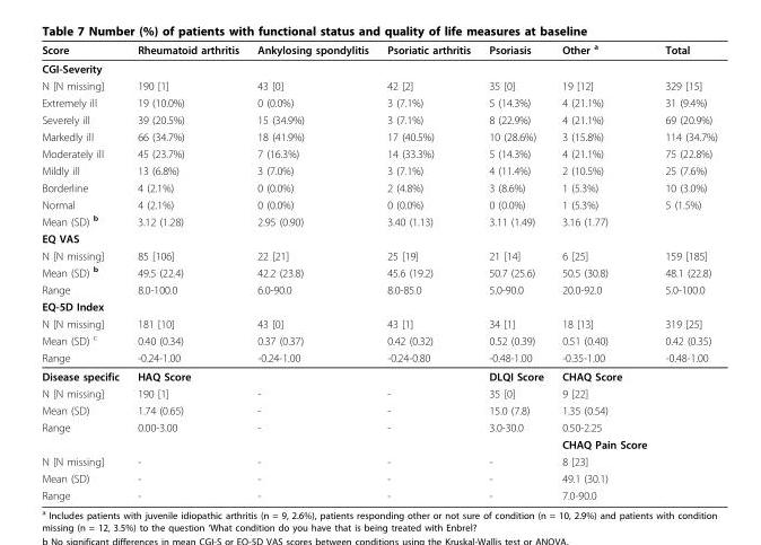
<table><thead><tr><td>Score</td><td>Rheumatoid arthritis</td><td>Ankylosing spondylitis</td><td>Psoriatic arthritis</td><td>Psoriasis</td><td>Other <sup>a</sup></td><td>Total</td></tr></thead><tbody><tr><td colspan="7">CGI-Severity</td></tr><tr><td>N [N missing]</td><td>190 [1]</td><td>43 [0]</td><td>42 [2]</td><td>35 [0]</td><td>19 [12]</td><td>329 [15]</td></tr><tr><td>Extremely ill</td><td>19 (10.0%)</td><td>0 (0.0%)</td><td>3 (7.1%)</td><td>5 (14.3%)</td><td>4 (21.1%)</td><td>31 (9.4%)</td></tr><tr><td>Severely ill</td><td>39 (20.5%)</td><td>15 (34.9%)</td><td>3 (7.1%)</td><td>8 (22.9%)</td><td>4 (21.1%)</td><td>69 (20.9%)</td></tr><tr><td>Markedly ill</td><td>66 (34.7%)</td><td>18 (41.9%)</td><td>17 (40.5%)</td><td>10 (28.6%)</td><td>3 (15.8%)</td><td>114 (34.7%)</td></tr><tr><td>Moderately ill</td><td>45 (23.7%)</td><td>7 (16.3%)</td><td>14 (33.3%)</td><td>5 (14.3%)</td><td>4 (21.1%)</td><td>75 (22.8%)</td></tr><tr><td>Mildly ill</td><td>13 (6.8%)</td><td>3 (7.0%)</td><td>3 (7.1%)</td><td>4 (11.4%)</td><td>2 (10.5%)</td><td>25 (7.6%)</td></tr><tr><td>Borderline</td><td>4 (2.1%)</td><td>0 (0.0%)</td><td>2 (4.8%)</td><td>3 (8.6%)</td><td>1 (5.3%)</td><td>10 (3.0%)</td></tr><tr><td>Normal</td><td>4 (2.1%)</td><td>0 (0.0%)</td><td>0 (0.0%)</td><td>0 (0.0%)</td><td>1 (5.3%)</td><td>5 (1.5%)</td></tr><tr><td>Mean (SD) <sup>b</sup></td><td>3.12 (1.28)</td><td>2.95 (0.90)</td><td>3.40 (1.13)</td><td>3.11 (1.49)</td><td>3.16 (1.77)</td><td></td></tr><tr><td colspan="7">EQ VAS</td></tr><tr><td>N [N missing]</td><td>85 [106]</td><td>22 [21]</td><td>25 [19]</td><td>21 [14]</td><td>6 [25]</td><td>159 [185]</td></tr><tr><td>Mean (SD) <sup>b</sup></td><td>49.5 (22.4)</td><td>42.2 (23.8)</td><td>45.6 (19.2)</td><td>50.7 (25.6)</td><td>50.5 (30.8)</td><td>48.1 (22.8)</td></tr><tr><td>Range</td><td>8.0-100.0</td><td>6.0-90.0</td><td>8.0-85.0</td><td>5.0-90.0</td><td>20.0-92.0</td><td>5.0-100.0</td></tr><tr><td colspan="7">EQ-5D Index</td></tr><tr><td>N [N missing]</td><td>181 [10]</td><td>43 [0]</td><td>43 [1]</td><td>34 [1]</td><td>18 [13]</td><td>319 [25]</td></tr><tr><td>Mean (SD) <sup>c</sup></td><td>0.40 (0.34)</td><td>0.37 (0.37)</td><td>0.42 (0.32)</td><td>0.52 (0.39)</td><td>0.51 (0.40)</td><td>0.42 (0.35)</td></tr><tr><td>Range</td><td>-0.24-1.00</td><td>-0.24-1.00</td><td>-0.24-0.80</td><td>-0.48-1.00</td><td>-0.35-1.00</td><td>-0.48-1.00</td></tr><tr><td>Disease specific</td><td>HAQ Score</td><td></td><td></td><td>DLQI Score</td><td>CHAQ Score</td><td></td></tr><tr><td>N [N missing]</td><td>190 [1]</td><td>-</td><td>-</td><td>35 [0]</td><td>9 [22]</td><td></td></tr><tr><td>Mean (SD)</td><td>1.74 (0.65)</td><td>-</td><td>-</td><td>15.0 (7.8)</td><td>1.35 (0.54)</td><td></td></tr><tr><td rowspan="2">Range</td><td>0.00-3.00</td><td>-</td><td>-</td><td>3.0-30.0</td><td>0.50-2.25</td><td></td></tr><tr><td></td><td></td><td></td><td></td><td>CHAQ Pain Score</td><td></td></tr><tr><td>N [N missing]</td><td>-</td><td>-</td><td>-</td><td>-</td><td>8 [23]</td><td></td></tr><tr><td>Mean (SD)</td><td>-</td><td>-</td><td>-</td><td>-</td><td>49.1 (30.1)</td><td></td></tr><tr><td>Range</td><td>-</td><td>-</td><td>-</td><td>-</td><td>7.0-90.0</td><td></td></tr></tbody></table>